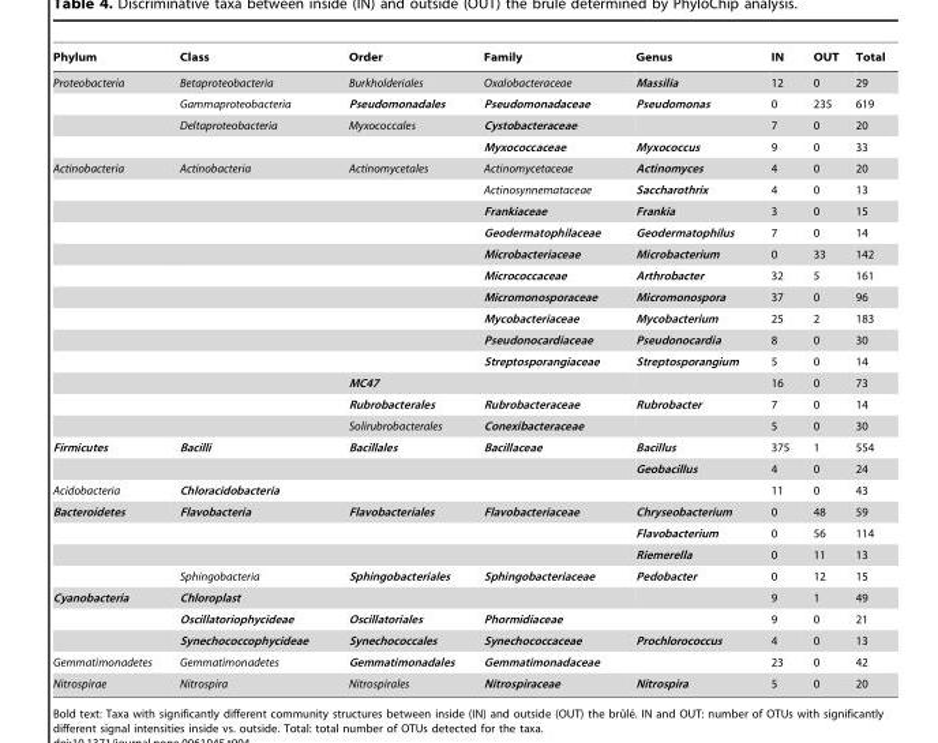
<table><thead><tr><td>Phylum</td><td>Class</td><td>Order</td><td>Family</td><td>Genus</td><td>IN</td><td>OUT</td><td>Total</td></tr></thead><tbody><tr><td rowspan="4">Proteobacteria</td><td>Betaproteobacteria</td><td>Burkholderiales</td><td>Oxalobacteraceae</td><td>Massilia</td><td>12</td><td>0</td><td>29</td></tr><tr><td>Gammaproteobacteria</td><td>Pseudomonadales</td><td>Pseudomonadaceae</td><td>Pseudomonas</td><td>0</td><td>235</td><td>619</td></tr><tr><td>Deltaproteobacteria</td><td>Myxococcales</td><td>Cystobacteraceae</td><td></td><td>7</td><td>0</td><td>20</td></tr><tr><td></td><td></td><td>Myxococcaceae</td><td>Myxococcus</td><td>9</td><td>0</td><td>33</td></tr><tr><td rowspan="13">Actinobacteria</td><td>Actinobacteria</td><td>Actinomycetales</td><td>Actinomycetaceae</td><td>Actinomyces</td><td>4</td><td>0</td><td>20</td></tr><tr><td></td><td></td><td>Actinosynnemataceae</td><td>Saccharothrix</td><td>4</td><td>0</td><td>13</td></tr><tr><td></td><td></td><td>Frankiaceae</td><td>Frankia</td><td>3</td><td>0</td><td>15</td></tr><tr><td></td><td></td><td>Geodermatophilaceae</td><td>Geodermatophilus</td><td>7</td><td>0</td><td>14</td></tr><tr><td></td><td></td><td>Microbacteriaceae</td><td>Microbacterium</td><td>0</td><td>33</td><td>142</td></tr><tr><td></td><td></td><td>Micrococcaceae</td><td>Arthrobacter</td><td>32</td><td>5</td><td>161</td></tr><tr><td></td><td></td><td>Micromonosporaceae</td><td>Micromonospora</td><td>37</td><td>0</td><td>96</td></tr><tr><td></td><td></td><td>Mycobacteriaceae</td><td>Mycobacterium</td><td>25</td><td>2</td><td>183</td></tr><tr><td></td><td></td><td>Pseudonocardiaceae</td><td>Pseudonocardia</td><td>8</td><td>0</td><td>30</td></tr><tr><td></td><td></td><td>Streptosporangiaceae</td><td>Streptosporangium</td><td>5</td><td>0</td><td>14</td></tr><tr><td></td><td>MC47</td><td></td><td></td><td>16</td><td>0</td><td>73</td></tr><tr><td></td><td>Rubrobacterales</td><td>Rubrobacteraceae</td><td>Rubrobacter</td><td>7</td><td>0</td><td>14</td></tr><tr><td></td><td>Solirubrobacterales</td><td>Conexibacteraceae</td><td></td><td>5</td><td>0</td><td>30</td></tr><tr><td rowspan="2">Firmicutes</td><td>Bacilli</td><td>Bacillales</td><td>Bacillaceae</td><td>Bacillus</td><td>375</td><td>1</td><td>554</td></tr><tr><td></td><td></td><td></td><td>Geobacillus</td><td>4</td><td>0</td><td>24</td></tr><tr><td>Acidobacteria</td><td>Chloracidobacteria</td><td></td><td></td><td></td><td>11</td><td>0</td><td>43</td></tr><tr><td rowspan="4">Bacteroidetes</td><td>Flavobacteria</td><td>Flavobacteriales</td><td>Flavobacteriaceae</td><td>Chryseobacterium</td><td>0</td><td>48</td><td>59</td></tr><tr><td></td><td></td><td></td><td>Flavobacterium</td><td>0</td><td>56</td><td>114</td></tr><tr><td></td><td></td><td></td><td>Riemerella</td><td>0</td><td>11</td><td>13</td></tr><tr><td>Sphingobacteria</td><td>Sphingobacteriales</td><td>Sphingobacteriaceae</td><td>Pedobacter</td><td>0</td><td>12</td><td>15</td></tr><tr><td rowspan="3">Cyanobacteria</td><td>Chloroplast</td><td></td><td></td><td></td><td>9</td><td>1</td><td>49</td></tr><tr><td>Oscillatoriophycideae</td><td>Oscillatoriales</td><td>Phormidiaceae</td><td></td><td>9</td><td>0</td><td>21</td></tr><tr><td>Synechococcophycideae</td><td>Synechococcales</td><td>Synechococcaceae</td><td>Prochlorococcus</td><td>4</td><td>0</td><td>13</td></tr><tr><td>Gemmatimonadetes</td><td>Gemmatimonadetes</td><td>Gemmatimonadales</td><td colspan="2">Gemmatimonadaceae</td><td>23</td><td>0</td><td>42</td></tr><tr><td>Nitrospirae</td><td>Nitrospira</td><td>Nitrospirales</td><td>Nitrospiraceae</td><td>Nitrospira</td><td>5</td><td>0</td><td>20</td></tr></tbody></table>